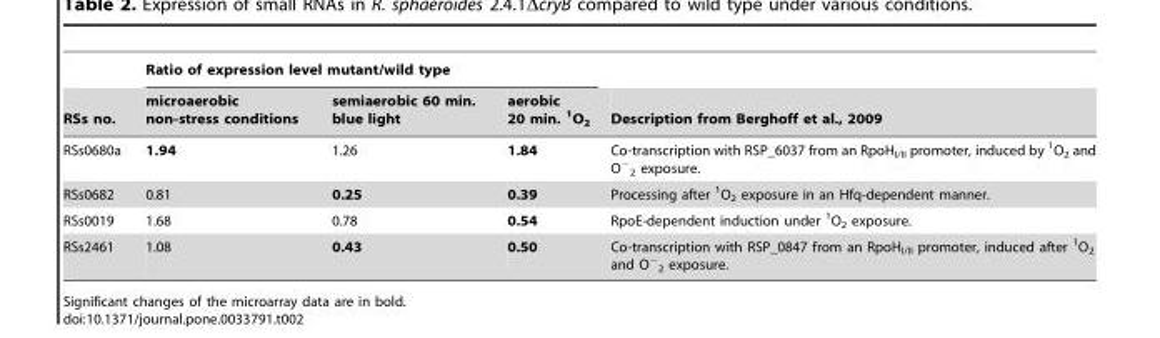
<table><thead><tr><td rowspan="2">RSs no.</td><td colspan="3">Ratio of expression level mutant/wild type</td><td rowspan="2">Description from Berghoff et al., 2009</td></tr><tr><td>microaerobic non-stress conditions</td><td>semiaerobic 60 min. blue light</td><td>aerobic 20 min. <sup>1</sup>O<sub>2</sub></td></tr></thead><tbody><tr><td>RSs0680a</td><td>1.94</td><td>1.26</td><td>1.84</td><td>Co-transcription with RSP_6037 from an RpoH<sub>I/II</sub> promoter, induced by <sup>1</sup>O<sub>2</sub> and O<sup>−</sup> <sub>2</sub> exposure.</td></tr><tr><td>RSs0682</td><td>0.81</td><td>0.25</td><td>0.39</td><td>Processing after <sup>1</sup>O<sub>2</sub> exposure in an Hfq-dependent manner.</td></tr><tr><td>RSs0019</td><td>1.68</td><td>0.78</td><td>0.54</td><td>RpoE-dependent induction under <sup>1</sup>O<sub>2</sub> exposure.</td></tr><tr><td>RSs2461</td><td>1.08</td><td>0.43</td><td>0.50</td><td>Co-transcription with RSP_0847 from an RpoH<sub>I/II</sub> promoter, induced after <sup>1</sup>O<sub>2</sub> and O<sup>−</sup> <sub>2</sub> exposure.</td></tr></tbody></table>